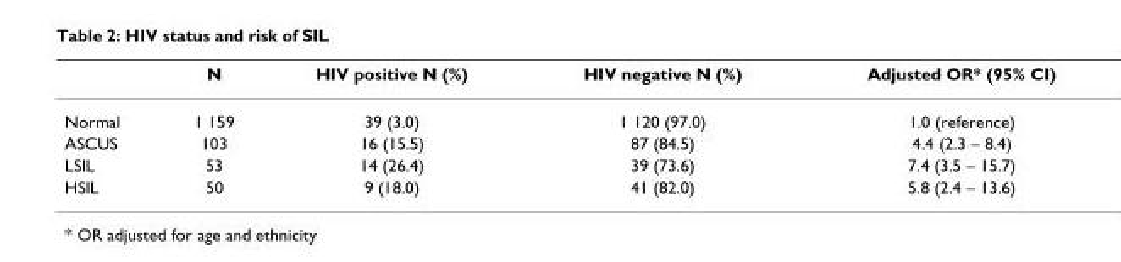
<table><thead><tr><td></td><td>N</td><td>HIV positive N (%)</td><td>HIV negative N (%)</td><td>Adjusted OR* (95% CI)</td></tr></thead><tbody><tr><td>Normal</td><td>1 159</td><td>39 (3.0)</td><td>1 120 (97.0)</td><td>1.0 (reference)</td></tr><tr><td>ASCUS</td><td>103</td><td>16 (15.5)</td><td>87 (84.5)</td><td>4.4 (2.3 – 8.4)</td></tr><tr><td>LSIL</td><td>53</td><td>14 (26.4)</td><td>39 (73.6)</td><td>7.4 (3.5 – 15.7)</td></tr><tr><td>HSIL</td><td>50</td><td>9 (18.0)</td><td>41 (82.0)</td><td>5.8 (2.4 – 13.6)</td></tr></tbody></table>